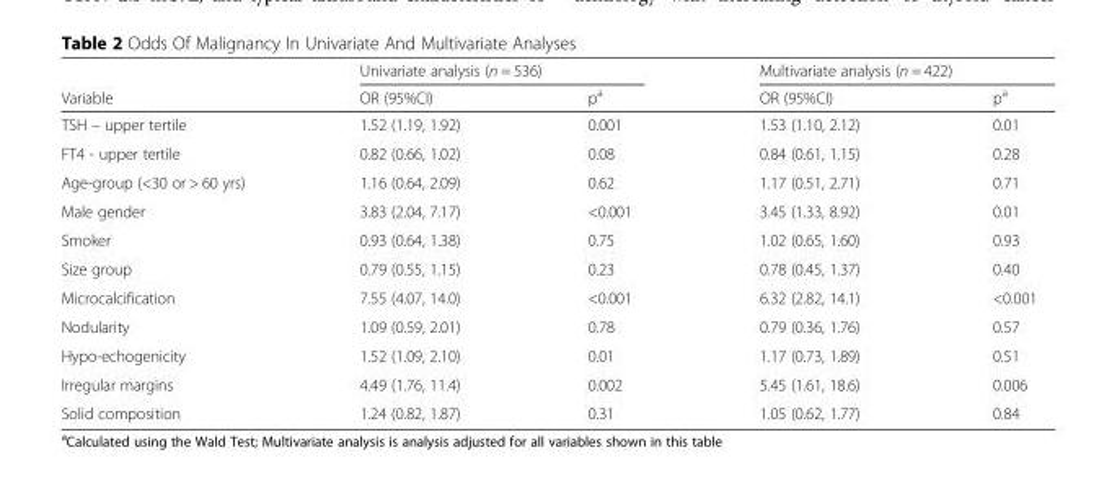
<table><thead><tr><td rowspan="2">Variable</td><td colspan="2">Univariate analysis (n = 536)</td><td colspan="2">Multivariate analysis (n = 422)</td></tr><tr><td>OR (95%CI)</td><td>p<sup>a</sup></td><td>OR (95%CI)</td><td>p<sup>a</sup></td></tr></thead><tbody><tr><td>TSH – upper tertile</td><td>1.52 (1.19, 1.92)</td><td>0.001</td><td>1.53 (1.10, 2.12)</td><td>0.01</td></tr><tr><td>FT4 - upper tertile</td><td>0.82 (0.66, 1.02)</td><td>0.08</td><td>0.84 (0.61, 1.15)</td><td>0.28</td></tr><tr><td>Age-group (&lt;30 or &gt; 60 yrs)</td><td>1.16 (0.64, 2.09)</td><td>0.62</td><td>1.17 (0.51, 2.71)</td><td>0.71</td></tr><tr><td>Male gender</td><td>3.83 (2.04, 7.17)</td><td>&lt;0.001</td><td>3.45 (1.33, 8.92)</td><td>0.01</td></tr><tr><td>Smoker</td><td>0.93 (0.64, 1.38)</td><td>0.75</td><td>1.02 (0.65, 1.60)</td><td>0.93</td></tr><tr><td>Size group</td><td>0.79 (0.55, 1.15)</td><td>0.23</td><td>0.78 (0.45, 1.37)</td><td>0.40</td></tr><tr><td>Microcalcification</td><td>7.55 (4.07, 14.0)</td><td>&lt;0.001</td><td>6.32 (2.82, 14.1)</td><td>&lt;0.001</td></tr><tr><td>Nodularity</td><td>1.09 (0.59, 2.01)</td><td>0.78</td><td>0.79 (0.36, 1.76)</td><td>0.57</td></tr><tr><td>Hypo-echogenicity</td><td>1.52 (1.09, 2.10)</td><td>0.01</td><td>1.17 (0.73, 1.89)</td><td>0.51</td></tr><tr><td>Irregular margins</td><td>4.49 (1.76, 11.4)</td><td>0.002</td><td>5.45 (1.61, 18.6)</td><td>0.006</td></tr><tr><td>Solid composition</td><td>1.24 (0.82, 1.87)</td><td>0.31</td><td>1.05 (0.62, 1.77)</td><td>0.84</td></tr></tbody></table>